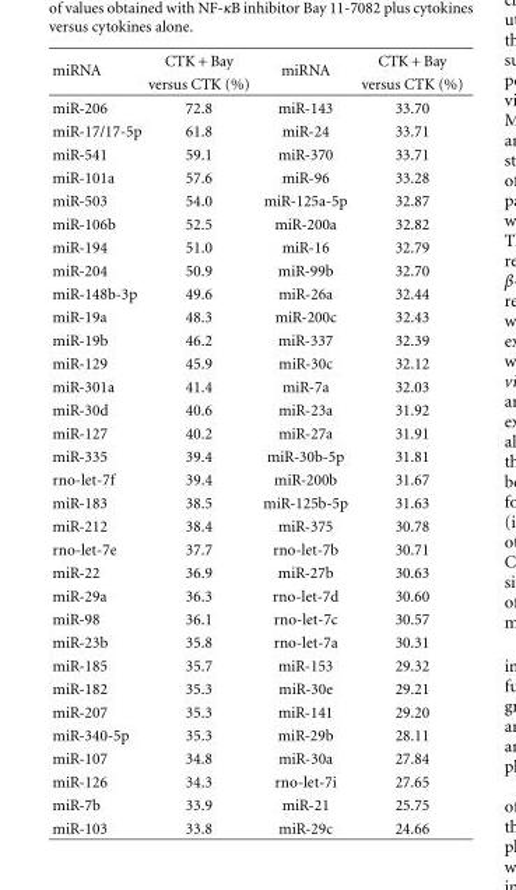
<table><thead><tr><td rowspan="2">miRNA</td><td rowspan="2">CTK + Bay versus CTK (%)</td><td rowspan="2">miRNA</td><td rowspan="2">CTK + Bay versus CTK (%)</td></tr><tr></tr></thead><tbody><tr><td>miR-206</td><td>72.8</td><td>miR-143</td><td>33.70</td></tr><tr><td>miR-17/17-5p</td><td>61.8</td><td>miR-24</td><td>33.71</td></tr><tr><td>miR-541</td><td>59.1</td><td>miR-370</td><td>33.71</td></tr><tr><td>miR-101a</td><td>57.6</td><td>miR-96</td><td>33.28</td></tr><tr><td>miR-503</td><td>54.0</td><td>miR-125a-5p</td><td>32.87</td></tr><tr><td>miR-106b</td><td>52.5</td><td>miR-200a</td><td>32.82</td></tr><tr><td>miR-194</td><td>51.0</td><td>miR-16</td><td>32.79</td></tr><tr><td>miR-204</td><td>50.9</td><td>miR-99b</td><td>32.70</td></tr><tr><td>miR-148b-3p</td><td>49.6</td><td>miR-26a</td><td>32.44</td></tr><tr><td>miR-19a</td><td>48.3</td><td>miR-200c</td><td>32.43</td></tr><tr><td>miR-19b</td><td>46.2</td><td>miR-337</td><td>32.39</td></tr><tr><td>miR-129</td><td>45.9</td><td>miR-30c</td><td>32.12</td></tr><tr><td>miR-301a</td><td>41.4</td><td>miR-7a</td><td>32.03</td></tr><tr><td>miR-30d</td><td>40.6</td><td>miR-23a</td><td>31.92</td></tr><tr><td>miR-127</td><td>40.2</td><td>miR-27a</td><td>31.91</td></tr><tr><td>miR-335</td><td>39.4</td><td>miR-30b-5p</td><td>31.81</td></tr><tr><td>rno-let-7f</td><td>39.4</td><td>miR-200b</td><td>31.67</td></tr><tr><td>miR-183</td><td>38.5</td><td>miR-125b-5p</td><td>31.63</td></tr><tr><td>miR-212</td><td>38.4</td><td>miR-375</td><td>30.78</td></tr><tr><td>rno-let-7e</td><td>37.7</td><td>rno-let-7b</td><td>30.71</td></tr><tr><td>miR-22</td><td>36.9</td><td>miR-27b</td><td>30.63</td></tr><tr><td>miR-29a</td><td>36.3</td><td>rno-let-7d</td><td>30.60</td></tr><tr><td>miR-98</td><td>36.1</td><td>rno-let-7c</td><td>30.57</td></tr><tr><td>miR-23b</td><td>35.8</td><td>rno-let-7a</td><td>30.31</td></tr><tr><td>miR-185</td><td>35.7</td><td>miR-153</td><td>29.32</td></tr><tr><td>miR-182</td><td>35.3</td><td>miR-30e</td><td>29.21</td></tr><tr><td>miR-207</td><td>35.3</td><td>miR-141</td><td>29.20</td></tr><tr><td>miR-340-5p</td><td>35.3</td><td>miR-29b</td><td>28.11</td></tr><tr><td>miR-107</td><td>34.8</td><td>miR-30a</td><td>27.84</td></tr><tr><td>miR-126</td><td>34.3</td><td>rno-let-7i</td><td>27.65</td></tr><tr><td>miR-7b</td><td>33.9</td><td>miR-21</td><td>25.75</td></tr><tr><td>miR-103</td><td>33.8</td><td>miR-29c</td><td>24.66</td></tr></tbody></table>